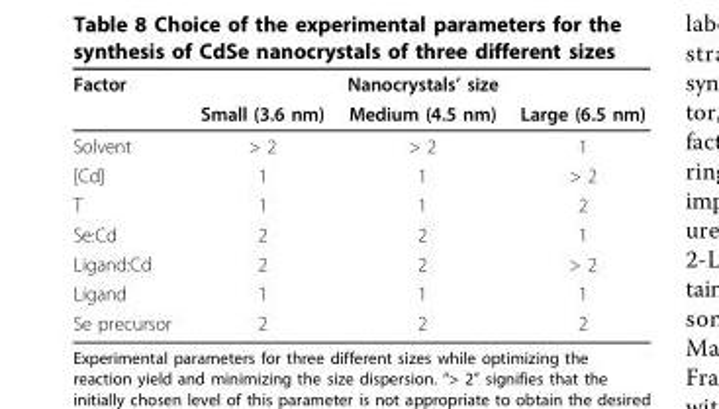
<table><thead><tr><td rowspan="2">Factor</td><td colspan="3">Nanocrystals’ size</td></tr><tr><td>Small (3.6 nm)</td><td>Medium (4.5 nm)</td><td>Large (6.5 nm)</td></tr></thead><tbody><tr><td>Solvent</td><td>&gt; 2</td><td>&gt; 2</td><td>1</td></tr><tr><td>[Cd]</td><td>1</td><td>1</td><td>&gt; 2</td></tr><tr><td>T</td><td>1</td><td>1</td><td>2</td></tr><tr><td>Se:Cd</td><td>2</td><td>2</td><td>1</td></tr><tr><td>Ligand:Cd</td><td>2</td><td>2</td><td>&gt; 2</td></tr><tr><td>Ligand</td><td>1</td><td>1</td><td>1</td></tr><tr><td>Se precursor</td><td>2</td><td>2</td><td>2</td></tr></tbody></table>